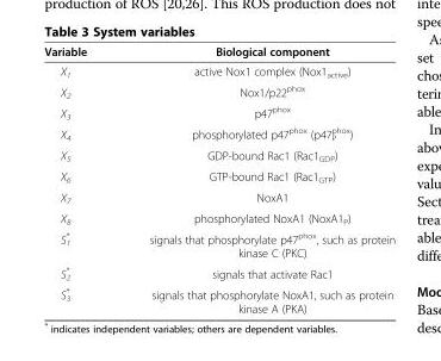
<table><thead><tr><td>Variable</td><td>Biological component</td></tr></thead><tbody><tr><td>X<sub>1</sub></td><td>active Nox1 complex (Nox1<sub>active</sub>)</td></tr><tr><td>X<sub>2</sub></td><td>Nox1/p22<sup>phox</sup></td></tr><tr><td>X<sub>3</sub></td><td>p47<sup>phox</sup></td></tr><tr><td>X<sub>4</sub></td><td>phosphorylated p47<sup>phox</sup> (p47<sup>phox</sup> <sub>P</sub> )</td></tr><tr><td>X<sub>5</sub></td><td>GDP-bound Rac1 (Rac1<sub>GDP</sub>)</td></tr><tr><td>X<sub>6</sub></td><td>GTP-bound Rac1 (Rac1<sub>GTP</sub>)</td></tr><tr><td>X<sub>7</sub></td><td>NoxA1</td></tr><tr><td>X<sub>8</sub></td><td>phosphorylated NoxA1 (NoxA1<sub>P</sub>)</td></tr><tr><td>S<sub>1</sub> *</td><td>signals that phosphorylate p47<sup>phox</sup>, such as protein kinase C (PKC)</td></tr><tr><td>S<sub>2</sub> *</td><td>signals that activate Rac1</td></tr><tr><td>S<sub>3</sub> *</td><td>signals that phosphorylate NoxA1, such as protein kinase A (PKA)</td></tr></tbody></table>